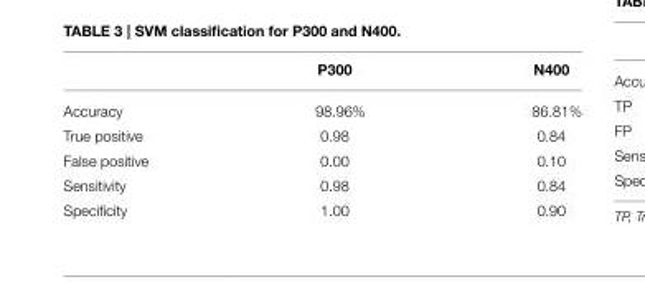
<table><thead><tr><td></td><td>P300</td><td>N400</td></tr></thead><tbody><tr><td>Accuracy</td><td>98.96%</td><td>86.81%</td></tr><tr><td>True positive</td><td>0.98</td><td>0.84</td></tr><tr><td>False positive</td><td>0.00</td><td>0.10</td></tr><tr><td>Sensitivity</td><td>0.98</td><td>0.84</td></tr><tr><td>Specificity</td><td>1.00</td><td>0.90</td></tr></tbody></table>